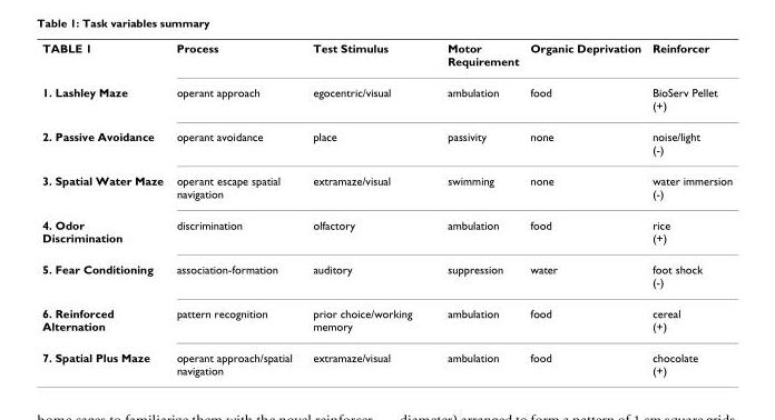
<table><tbody><tr><td>TABLE 1</td><td>Process</td><td>Test Stimulus</td><td>Motor Requirement</td><td>Organic Deprivation</td><td>Reinforcer</td></tr><tr><td>1. Lashley Maze</td><td>operant approach</td><td>egocentric/visual</td><td>ambulation</td><td>food</td><td>BioServ Pellet (+)</td></tr><tr><td>2. Passive Avoidance</td><td>operant avoidance</td><td>place</td><td>passivity</td><td>none</td><td>noise/light (-)</td></tr><tr><td>3. Spatial Water Maze</td><td>operant escape spatial navigation</td><td>extramaze/visual</td><td>swimming</td><td>none</td><td>water immersion (-)</td></tr><tr><td>4. Odor Discrimination</td><td>discrimination</td><td>olfactory</td><td>ambulation</td><td>food</td><td>rice (+)</td></tr><tr><td>5. Fear Conditioning</td><td>association-formation</td><td>auditory</td><td>suppression</td><td>water</td><td>foot shock (-)</td></tr><tr><td>6. Reinforced Alternation</td><td>pattern recognition</td><td>prior choice/working memory</td><td>ambulation</td><td>food</td><td>cereal (+)</td></tr><tr><td>7. Spatial Plus Maze</td><td>operant approach/spatial navigation</td><td>extramaze/visual</td><td>ambulation</td><td>food</td><td>chocolate (+)</td></tr></tbody></table>